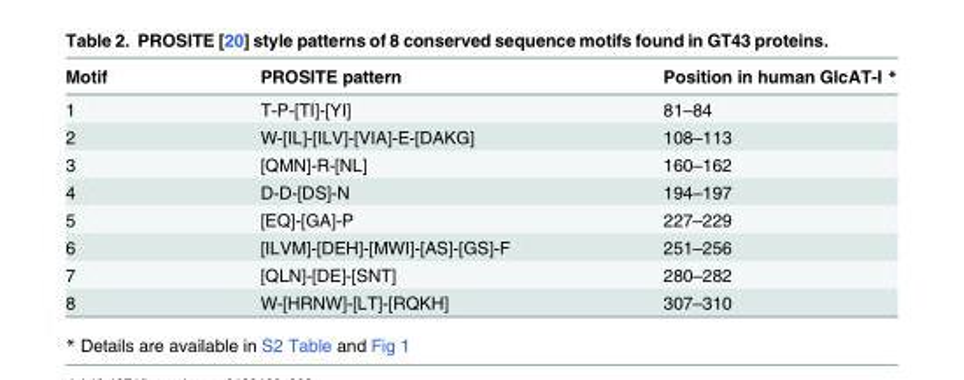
<table><thead><tr><td>Motif</td><td>PROSITE pattern</td><td>Position in human GlcAT-I *</td></tr></thead><tbody><tr><td>1</td><td>T-P-[TI]-[YI]</td><td>81–84</td></tr><tr><td>2</td><td>W-[IL]-[ILV]-[VIA]-E-[DAKG]</td><td>108–113</td></tr><tr><td>3</td><td>[QMN]-R-[NL]</td><td>160–162</td></tr><tr><td>4</td><td>D-D-[DS]-N</td><td>194–197</td></tr><tr><td>5</td><td>[EQ]-[GA]-P</td><td>227–229</td></tr><tr><td>6</td><td>[ILVM]-[DEH]-[MWI]-[AS]-[GS]-F</td><td>251–256</td></tr><tr><td>7</td><td>[QLN]-[DE]-[SNT]</td><td>280–282</td></tr><tr><td>8</td><td>W-[HRNW]-[LT]-[RQKH]</td><td>307–310</td></tr></tbody></table>